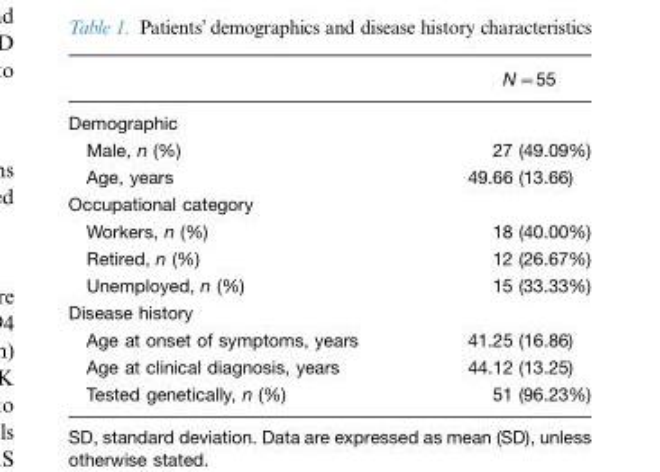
<table><thead><tr><td></td><td>N=55</td></tr></thead><tbody><tr><td colspan="2">Demographic</td></tr><tr><td>Male, n (%)</td><td>27 (49.09%)</td></tr><tr><td>Age, years</td><td>49.66 (13.66)</td></tr><tr><td colspan="2">Occupational category</td></tr><tr><td>Workers, n (%)</td><td>18 (40.00%)</td></tr><tr><td>Retired, n (%)</td><td>12 (26.67%)</td></tr><tr><td>Unemployed, n (%)</td><td>15 (33.33%)</td></tr><tr><td colspan="2">Disease history</td></tr><tr><td>Age at onset of symptoms, years</td><td>41.25 (16.86)</td></tr><tr><td>Age at clinical diagnosis, years</td><td>44.12 (13.25)</td></tr><tr><td>Tested genetically, n (%)</td><td>51 (96.23%)</td></tr></tbody></table>